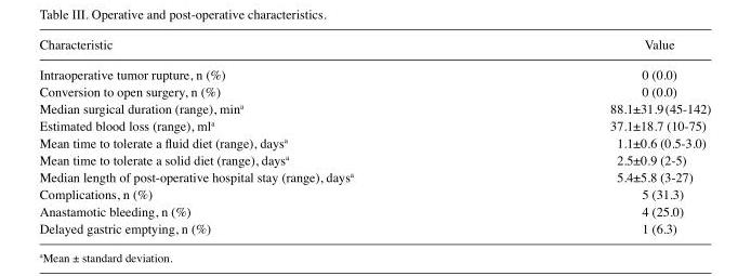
<table><thead><tr><td>Characteristic</td><td>Value</td></tr></thead><tbody><tr><td>Intraoperative tumor rupture, n (%)</td><td>0 (0.0)</td></tr><tr><td>Conversion to open surgery, n (%)</td><td>0 (0.0)</td></tr><tr><td>Median surgical duration (range), min<sup>a</sup></td><td>88.1±31.9 (45-142)</td></tr><tr><td>Estimated blood loss (range), ml<sup>a</sup></td><td>37.1±18.7 (10-75)</td></tr><tr><td>Mean time to tolerate a fluid diet (range), days<sup>a</sup></td><td>1.1±0.6 (0.5-3.0)</td></tr><tr><td>Mean time to tolerate a solid diet (range), days<sup>a</sup></td><td>2.5±0.9 (2-5)</td></tr><tr><td>Median length of post-operative hospital stay (range), days<sup>a</sup></td><td>5.4±5.8 (3-27)</td></tr><tr><td>Complications, n (%)</td><td>5 (31.3)</td></tr><tr><td>Anastamotic bleeding, n (%)</td><td>4 (25.0)</td></tr><tr><td>Delayed gastric emptying, n (%)</td><td>1 (6.3)</td></tr></tbody></table>